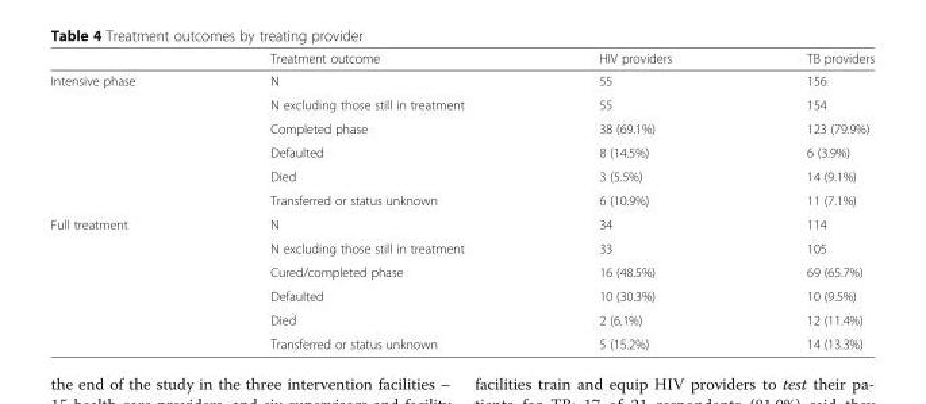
<table><thead><tr><td></td><td>Treatment outcome</td><td>HIV providers</td><td>TB providers</td></tr></thead><tbody><tr><td rowspan="6">Intensive phase</td><td>N</td><td>55</td><td>156</td></tr><tr><td>N excluding those still in treatment</td><td>55</td><td>154</td></tr><tr><td>Completed phase</td><td>38 (69.1%)</td><td>123 (79.9%)</td></tr><tr><td>Defaulted</td><td>8 (14.5%)</td><td>6 (3.9%)</td></tr><tr><td>Died</td><td>3 (5.5%)</td><td>14 (9.1%)</td></tr><tr><td>Transferred or status unknown</td><td>6 (10.9%)</td><td>11 (7.1%)</td></tr><tr><td rowspan="6">Full treatment</td><td>N</td><td>34</td><td>114</td></tr><tr><td>N excluding those still in treatment</td><td>33</td><td>105</td></tr><tr><td>Cured/completed phase</td><td>16 (48.5%)</td><td>69 (65.7%)</td></tr><tr><td>Defaulted</td><td>10 (30.3%)</td><td>10 (9.5%)</td></tr><tr><td>Died</td><td>2 (6.1%)</td><td>12 (11.4%)</td></tr><tr><td>Transferred or status unknown</td><td>5 (15.2%)</td><td>14 (13.3%)</td></tr></tbody></table>